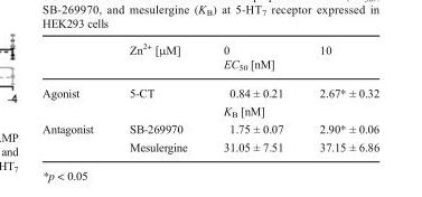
<table><thead><tr><td rowspan="2"></td><td rowspan="2">Zn<sup>2+</sup> [μM]</td><td>0</td><td>10</td></tr><tr><td colspan="2">EC<sub>50</sub> [nM]</td></tr></thead><tbody><tr><td rowspan="2">Agonist</td><td>5-CT</td><td>0.84 ± 0.21</td><td>2.67* ± 0.32</td></tr><tr><td></td><td colspan="2">K<sub>B</sub> [nM]</td></tr><tr><td rowspan="2">Antagonist</td><td>SB-269970</td><td>1.75 ± 0.07</td><td>2.90* ± 0.06</td></tr><tr><td>Mesulergine</td><td>31.05 ± 7.51</td><td>37.15 ± 6.86</td></tr></tbody></table>